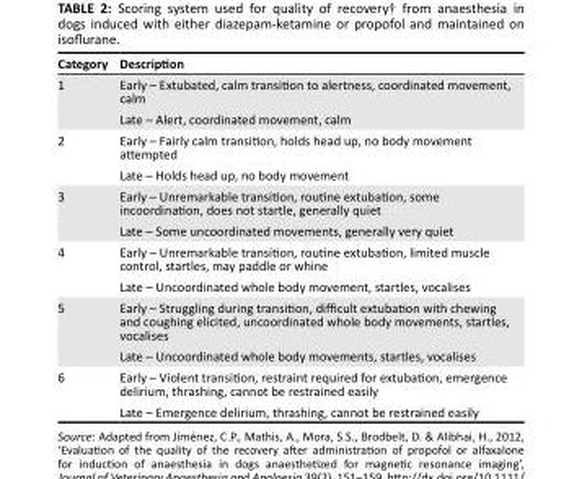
<table><thead><tr><td>Category</td><td>Description</td></tr></thead><tbody><tr><td rowspan="2">1</td><td>Early – Extubated, calm transition to alertness, coordinated movement, calm</td></tr><tr><td>Late – Alert, coordinated movement, calm</td></tr><tr><td rowspan="2">2</td><td>Early – Fairly calm transition, holds head up, no body movement attempted</td></tr><tr><td>Late – Holds head up, no body movement</td></tr><tr><td rowspan="2">3</td><td>Early – Unremarkable transition, routine extubation, some incoordination, does not startle, generally quiet</td></tr><tr><td>Late – Some uncoordinated movements, generally very quiet</td></tr><tr><td rowspan="2">4</td><td>Early – Unremarkable transition, routine extubation, limited muscle control, startles, may paddle or whine</td></tr><tr><td>Late – Uncoordinated whole body movement, startles, vocalises</td></tr><tr><td rowspan="2">5</td><td>Early – Struggling during transition, difficult extubation with chewing and coughing elicited, uncoordinated whole body movements, startles, vocalises</td></tr><tr><td>Late – Uncoordinated whole body movements, startles, vocalises</td></tr><tr><td rowspan="2">6</td><td>Early – Violent transition, restraint required for extubation, emergence delirium, thrashing, cannot be restrained easily</td></tr><tr><td>Late – Emergence delirium, thrashing, cannot be restrained easily</td></tr></tbody></table>